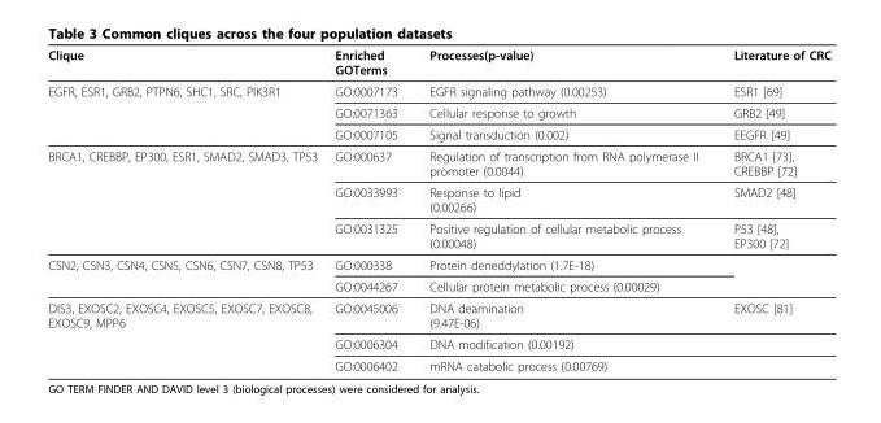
<table><thead><tr><td>Clique</td><td>Enriched GOTerms</td><td>Processes(p-value)</td><td>Literature of CRC</td></tr></thead><tbody><tr><td rowspan="3">EGFR, ESR1, GRB2, PTPN6, SHC1, SRC, PIK3R1</td><td>GO:0007173</td><td>EGFR signaling pathway (0.00253)</td><td>ESR1 [69]</td></tr><tr><td>GO:0071363</td><td>Cellular response to growth</td><td>GRB2 [49]</td></tr><tr><td>GO:0007105</td><td>Signal transduction (0.002)</td><td>EEGFR [49]</td></tr><tr><td rowspan="3">BRCA1, CREBBP, EP300, ESR1, SMAD2, SMAD3, TP53</td><td>GO:000637</td><td>Regulation of transcription from RNA polymerase II promoter (0.0044)</td><td>BRCA1 [73], CREBBP [72]</td></tr><tr><td>GO:0033993</td><td>Response to lipid (0.00266)</td><td>SMAD2 [48]</td></tr><tr><td>GO:0031325</td><td>Positive regulation of cellular metabolic process (0.00048)</td><td>P53 [48], EP300 [72]</td></tr><tr><td rowspan="2">CSN2, CSN3, CSN4, CSN5, CSN6, CSN7, CSN8, TP53</td><td>GO:000338</td><td>Protein deneddylation (1.7E-18)</td><td></td></tr><tr><td>GO:0044267</td><td>Cellular protein metabolic process (0.00029)</td><td></td></tr><tr><td rowspan="3">DIS3, EXOSC2, EXOSC4, EXOSC5, EXOSC7, EXOSC8, EXOSC9, MPP6</td><td>GO:0045006</td><td>DNA deamination (9.47E-06)</td><td>EXOSC [81]</td></tr><tr><td>GO:0006304</td><td>DNA modification (0.00192)</td><td></td></tr><tr><td>GO:0006402</td><td>mRNA catabolic process (0.00769)</td><td></td></tr></tbody></table>